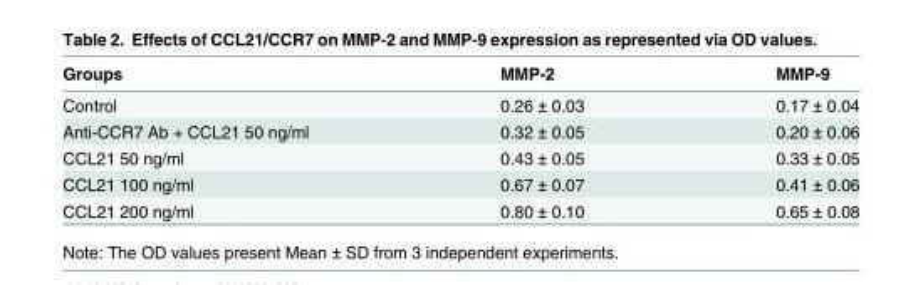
<table><thead><tr><td>Groups</td><td>MMP-2</td><td>MMP-9</td></tr></thead><tbody><tr><td>Control</td><td>0.26 ± 0.03</td><td>0.17 ± 0.04</td></tr><tr><td>Anti-CCR7 Ab + CCL21 50 ng/ml</td><td>0.32 ± 0.05</td><td>0.20 ± 0.06</td></tr><tr><td>CCL21 50 ng/ml</td><td>0.43 ± 0.05</td><td>0.33 ± 0.05</td></tr><tr><td>CCL21 100 ng/ml</td><td>0.67 ± 0.07</td><td>0.41 ± 0.06</td></tr><tr><td>CCL21 200 ng/ml</td><td>0.80 ± 0.10</td><td>0.65 ± 0.08</td></tr></tbody></table>